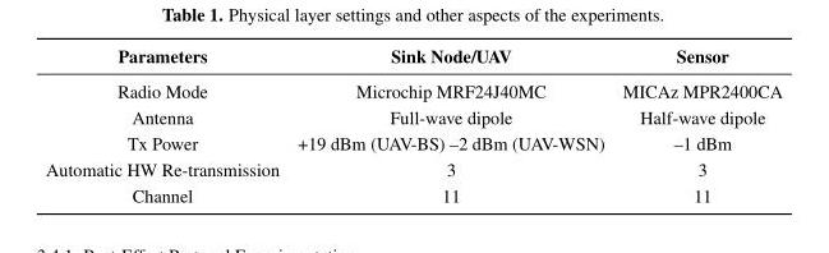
<table><thead><tr><td>Parameters</td><td>Sink Node/UAV</td><td>Sensor</td></tr></thead><tbody><tr><td>Radio Mode</td><td>Microchip MRF24J40MC</td><td>MICAz MPR2400CA</td></tr><tr><td>Antenna</td><td>Full-wave dipole</td><td>Half-wave dipole</td></tr><tr><td>Tx Power</td><td>+19 dBm (UAV-BS) –2 dBm (UAV-WSN)</td><td>–1 dBm</td></tr><tr><td>Automatic HW Re-transmission</td><td>3</td><td>3</td></tr><tr><td>Channel</td><td>11</td><td>11</td></tr></tbody></table>